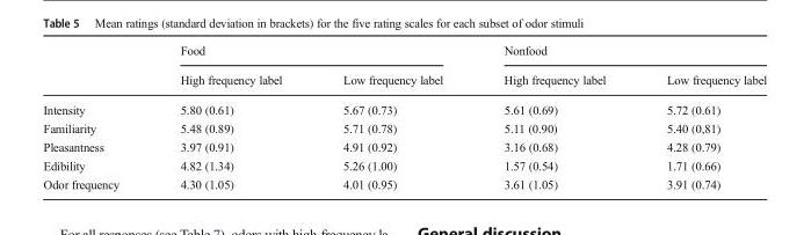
<table><thead><tr><td rowspan="2"></td><td colspan="2">Food</td><td colspan="2">Nonfood</td></tr><tr><td>High frequency label</td><td>Low frequency label</td><td>High frequency label</td><td>Low frequency label</td></tr></thead><tbody><tr><td>Intensity</td><td>5.80 (0.61)</td><td>5.67 (0.73)</td><td>5.61 (0.69)</td><td>5.72 (0.61)</td></tr><tr><td>Familiarity</td><td>5.48 (0.89)</td><td>5.71 (0.78)</td><td>5.11 (0.90)</td><td>5.40 (0,81)</td></tr><tr><td>Pleasantness</td><td>3.97 (0.91)</td><td>4.91 (0.92)</td><td>3.16 (0.68)</td><td>4.28 (0.79)</td></tr><tr><td>Edibility</td><td>4.82 (1.34)</td><td>5.26 (1.00)</td><td>1.57 (0.54)</td><td>1.71 (0.66)</td></tr><tr><td>Odor frequency</td><td>4.30 (1.05)</td><td>4.01 (0.95)</td><td>3.61 (1.05)</td><td>3.91 (0.74)</td></tr></tbody></table>